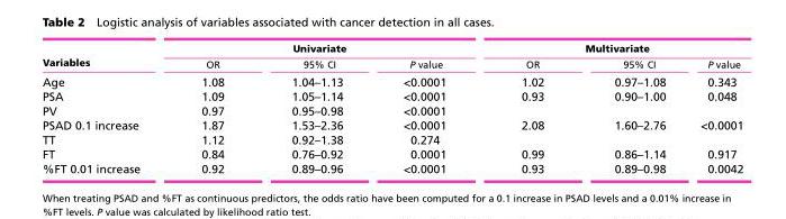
<table><thead><tr><td rowspan="2">Variables</td><td colspan="3">Univariate</td><td colspan="3">Multivariate</td></tr><tr><td>OR</td><td>95% CI</td><td>P value</td><td>OR</td><td>95% CI</td><td>P value</td></tr></thead><tbody><tr><td>Age</td><td>1.08</td><td>1.04–1.13</td><td>&lt;0.0001</td><td>1.02</td><td>0.97–1.08</td><td>0.343</td></tr><tr><td>PSA</td><td>1.09</td><td>1.05–1.14</td><td>&lt;0.0001</td><td>0.93</td><td>0.90–1.00</td><td>0.048</td></tr><tr><td>PV</td><td>0.97</td><td>0.95–0.98</td><td>&lt;0.0001</td><td></td><td></td><td></td></tr><tr><td>PSAD 0.1 increase</td><td>1.87</td><td>1.53–2.36</td><td>&lt;0.0001</td><td>2.08</td><td>1.60–2.76</td><td>&lt;0.0001</td></tr><tr><td>TT</td><td>1.12</td><td>0.92–1.38</td><td>0.274</td><td></td><td></td><td></td></tr><tr><td>FT</td><td>0.84</td><td>0.76–0.92</td><td>0.0001</td><td>0.99</td><td>0.86–1.14</td><td>0.917</td></tr><tr><td>%FT 0.01 increase</td><td>0.92</td><td>0.89–0.96</td><td>&lt;0.0001</td><td>0.93</td><td>0.89–0.98</td><td>0.0042</td></tr></tbody></table>